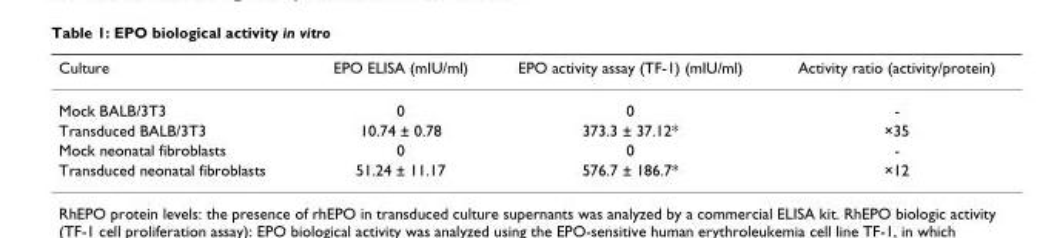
<table><thead><tr><td>Culture</td><td>EPO ELISA (mIU/ml)</td><td>EPO activity assay (TF-1) (mIU/ml)</td><td>Activity ratio (activity/protein)</td></tr></thead><tbody><tr><td>Mock BALB/3T3</td><td>0</td><td>0</td><td>-</td></tr><tr><td>Transduced BALB/3T3</td><td>10.74 ± 0.78</td><td>373.3 ± 37.12*</td><td>×35</td></tr><tr><td>Mock neonatal fibroblasts</td><td>0</td><td>0</td><td>-</td></tr><tr><td>Transduced neonatal fibroblasts</td><td>51.24 ± 11.17</td><td>576.7 ± 186.7*</td><td>×12</td></tr></tbody></table>